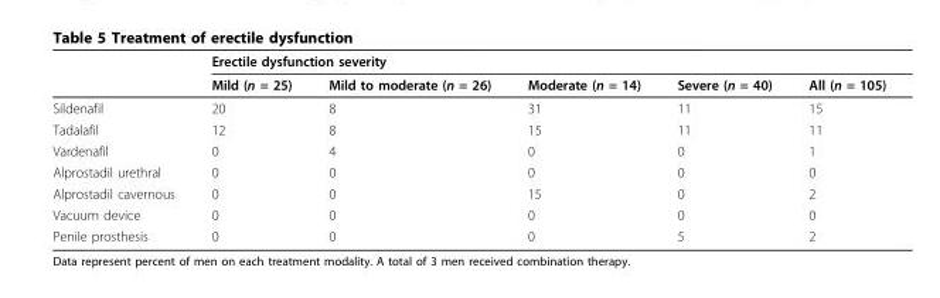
<table><thead><tr><td rowspan="2"></td><td colspan="5">Erectile dysfunction severity</td></tr><tr><td>Mild (n = 25)</td><td>Mild to moderate (n = 26)</td><td>Moderate (n = 14)</td><td>Severe (n = 40)</td><td>All (n = 105)</td></tr></thead><tbody><tr><td>Sildenafil</td><td>20</td><td>8</td><td>31</td><td>11</td><td>15</td></tr><tr><td>Tadalafil</td><td>12</td><td>8</td><td>15</td><td>11</td><td>11</td></tr><tr><td>Vardenafil</td><td>0</td><td>4</td><td>0</td><td>0</td><td>1</td></tr><tr><td>Alprostadil urethral</td><td>0</td><td>0</td><td>0</td><td>0</td><td>0</td></tr><tr><td>Alprostadil cavernous</td><td>0</td><td>0</td><td>15</td><td>0</td><td>2</td></tr><tr><td>Vacuum device</td><td>0</td><td>0</td><td>0</td><td>0</td><td>0</td></tr><tr><td>Penile prosthesis</td><td>0</td><td>0</td><td>0</td><td>5</td><td>2</td></tr></tbody></table>